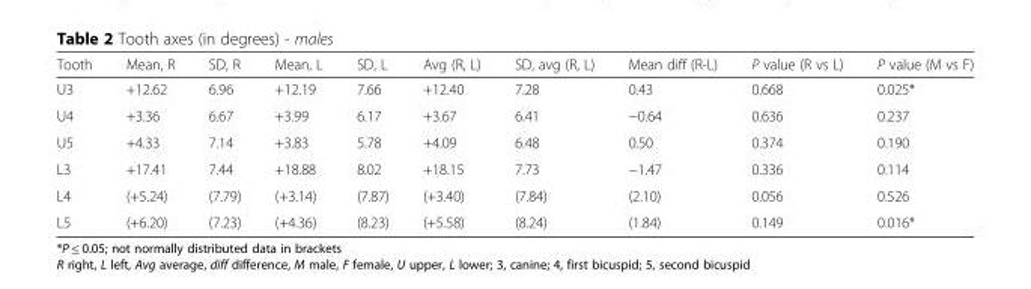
<table><thead><tr><td>Tooth</td><td>Mean, R</td><td>SD, R</td><td>Mean, L</td><td>SD, L</td><td>Avg (R, L)</td><td>SD, avg (R, L)</td><td>Mean diff (R-L)</td><td>P value (R vs L)</td><td>P value (M vs F)</td></tr></thead><tbody><tr><td>U3</td><td>+12.62</td><td>6.96</td><td>+12.19</td><td>7.66</td><td>+12.40</td><td>7.28</td><td>0.43</td><td>0.668</td><td>0.025*</td></tr><tr><td>U4</td><td>+3.36</td><td>6.67</td><td>+3.99</td><td>6.17</td><td>+3.67</td><td>6.41</td><td>−0.64</td><td>0.636</td><td>0.237</td></tr><tr><td>U5</td><td>+4.33</td><td>7.14</td><td>+3.83</td><td>5.78</td><td>+4.09</td><td>6.48</td><td>0.50</td><td>0.374</td><td>0.190</td></tr><tr><td>L3</td><td>+17.41</td><td>7.44</td><td>+18.88</td><td>8.02</td><td>+18.15</td><td>7.73</td><td>−1.47</td><td>0.336</td><td>0.114</td></tr><tr><td>L4</td><td>(+5.24)</td><td>(7.79)</td><td>(+3.14)</td><td>(7.87)</td><td>(+3.40)</td><td>(7.84)</td><td>(2.10)</td><td>0.056</td><td>0.526</td></tr><tr><td>L5</td><td>(+6.20)</td><td>(7.23)</td><td>(+4.36)</td><td>(8.23)</td><td>(+5.58)</td><td>(8.24)</td><td>(1.84)</td><td>0.149</td><td>0.016*</td></tr></tbody></table>